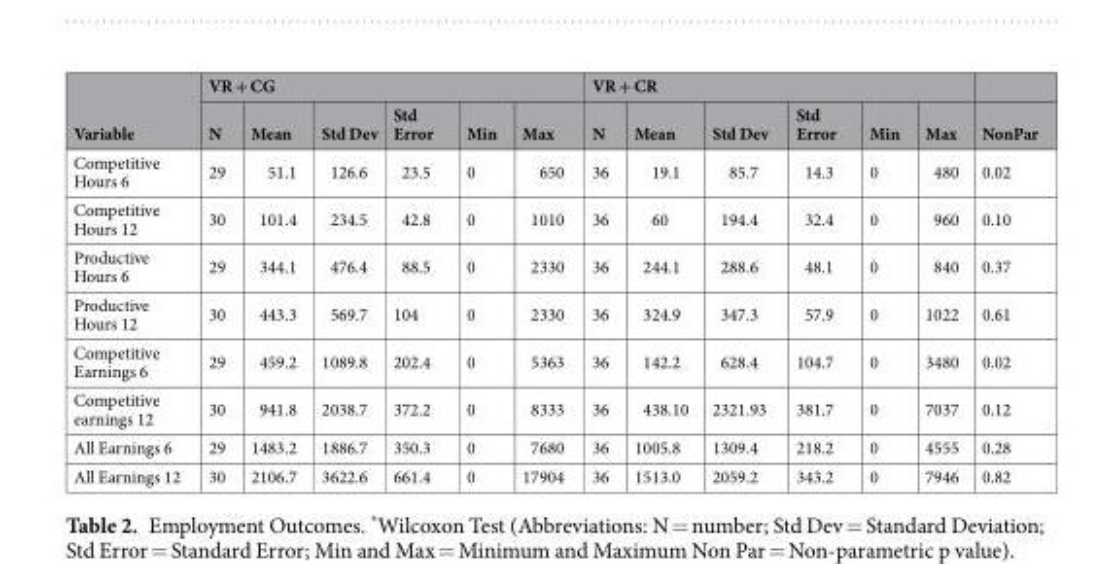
<table><thead><tr><td rowspan="2">Variable</td><td colspan="6">VR + CG</td><td colspan="6">VR + CR</td><td rowspan="2">NonPar</td></tr><tr><td>N</td><td>Mean</td><td>Std Dev</td><td>Std Error</td><td>Min</td><td>Max</td><td>N</td><td>Mean</td><td>Std Dev</td><td>Std Error</td><td>Min</td><td>Max</td></tr></thead><tbody><tr><td>Competitive Hours 6</td><td>29</td><td>51.1</td><td>126.6</td><td>23.5</td><td>0</td><td>650</td><td>36</td><td>19.1</td><td>85.7</td><td>14.3</td><td>0</td><td>480</td><td>0.02</td></tr><tr><td>Competitive Hours 12</td><td>30</td><td>101.4</td><td>234.5</td><td>42.8</td><td>0</td><td>1010</td><td>36</td><td>60</td><td>194.4</td><td>32.4</td><td>0</td><td>960</td><td>0.10</td></tr><tr><td>Productive Hours 6</td><td>29</td><td>344.1</td><td>476.4</td><td>88.5</td><td>0</td><td>2330</td><td>36</td><td>244.1</td><td>288.6</td><td>48.1</td><td>0</td><td>840</td><td>0.37</td></tr><tr><td>Productive Hours 12</td><td>30</td><td>443.3</td><td>569.7</td><td>104</td><td>0</td><td>2330</td><td>36</td><td>324.9</td><td>347.3</td><td>57.9</td><td>0</td><td>1022</td><td>0.61</td></tr><tr><td>Competitive Earnings 6</td><td>29</td><td>459.2</td><td>1089.8</td><td>202.4</td><td>0</td><td>5363</td><td>36</td><td>142.2</td><td>628.4</td><td>104.7</td><td>0</td><td>3480</td><td>0.02</td></tr><tr><td>Competitive earnings 12</td><td>30</td><td>941.8</td><td>2038.7</td><td>372.2</td><td>0</td><td>8333</td><td>36</td><td>438.10</td><td>2321.93</td><td>381.7</td><td>0</td><td>7037</td><td>0.12</td></tr><tr><td>All Earnings 6</td><td>29</td><td>1483.2</td><td>1886.7</td><td>350.3</td><td>0</td><td>7680</td><td>36</td><td>1005.8</td><td>1309.4</td><td>218.2</td><td>0</td><td>4555</td><td>0.28</td></tr><tr><td>All Earnings 12</td><td>30</td><td>2106.7</td><td>3622.6</td><td>661.4</td><td>0</td><td>17904</td><td>36</td><td>1513.0</td><td>2059.2</td><td>343.2</td><td>0</td><td>7946</td><td>0.82</td></tr></tbody></table>